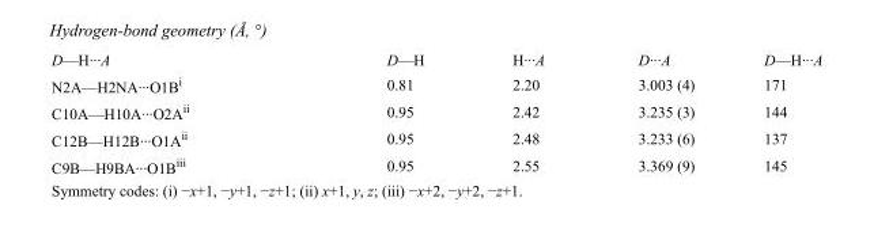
<table><tbody><tr><td>D—H···A</td><td>D—H</td><td>H···A</td><td>D···A</td><td>D—H···A</td></tr><tr><td>N2A—H2NA···O1B<sup>i</sup></td><td>0.81</td><td>2.20</td><td>3.003 (4)</td><td>171</td></tr><tr><td>C10A—H10A···O2A<sup>ii</sup></td><td>0.95</td><td>2.42</td><td>3.235 (3)</td><td>144</td></tr><tr><td>C12B—H12B···O1A<sup>ii</sup></td><td>0.95</td><td>2.48</td><td>3.233 (6)</td><td>137</td></tr><tr><td>C9B—H9BA···O1B<sup>iii</sup></td><td>0.95</td><td>2.55</td><td>3.369 (9)</td><td>145</td></tr></tbody></table>